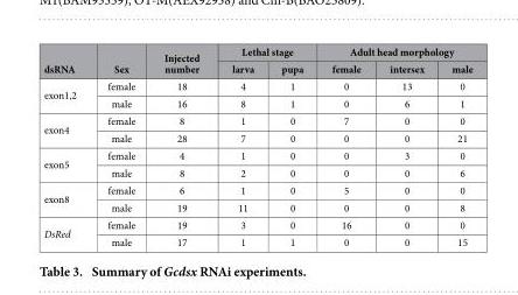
<table><thead><tr><td rowspan="2">dsRNA</td><td rowspan="2">Sex</td><td rowspan="2">Injected number</td><td colspan="2">Lethal stage</td><td colspan="3">Adult head morphology</td></tr><tr><td>larva</td><td>pupa</td><td>female</td><td>intersex</td><td>male</td></tr></thead><tbody><tr><td rowspan="2">exon1,2</td><td>female</td><td>18</td><td>4</td><td>1</td><td>0</td><td>13</td><td>0</td></tr><tr><td>male</td><td>16</td><td>8</td><td>1</td><td>0</td><td>6</td><td>1</td></tr><tr><td rowspan="2">exon4</td><td>female</td><td>8</td><td>1</td><td>0</td><td>7</td><td>0</td><td>0</td></tr><tr><td>male</td><td>28</td><td>7</td><td>0</td><td>0</td><td>0</td><td>21</td></tr><tr><td rowspan="2">exon5</td><td>female</td><td>4</td><td>1</td><td>0</td><td>0</td><td>3</td><td>0</td></tr><tr><td>male</td><td>8</td><td>2</td><td>0</td><td>0</td><td>0</td><td>6</td></tr><tr><td rowspan="2">exon8</td><td>female</td><td>6</td><td>1</td><td>0</td><td>5</td><td>0</td><td>0</td></tr><tr><td>male</td><td>19</td><td>11</td><td>0</td><td>0</td><td>0</td><td>8</td></tr><tr><td rowspan="2">DsRed</td><td>female</td><td>19</td><td>3</td><td>0</td><td>16</td><td>0</td><td>0</td></tr><tr><td>male</td><td>17</td><td>1</td><td>1</td><td>0</td><td>0</td><td>15</td></tr></tbody></table>